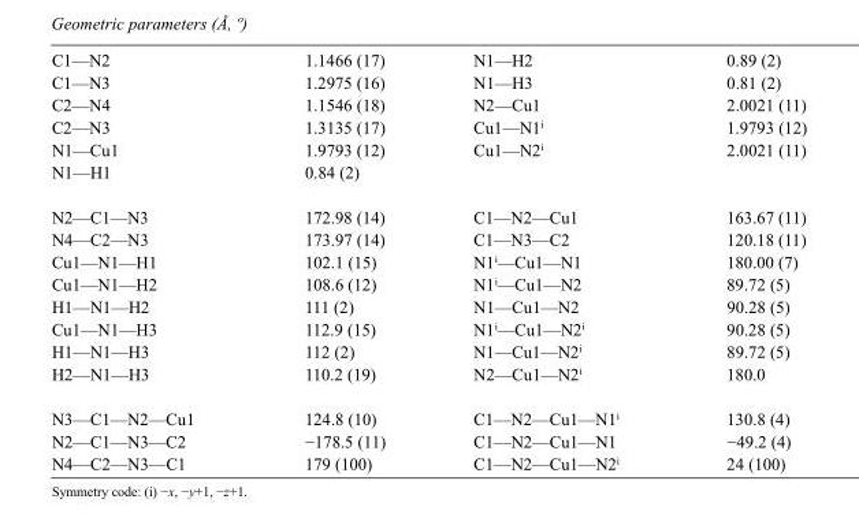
<table><tbody><tr><td>C1—N2</td><td>1.1466 (17)</td><td>N1—H2</td><td>0.89 (2)</td></tr><tr><td>C1—N3</td><td>1.2975 (16)</td><td>N1—H3</td><td>0.81 (2)</td></tr><tr><td>C2—N4</td><td>1.1546 (18)</td><td>N2—Cu1</td><td>2.0021 (11)</td></tr><tr><td>C2—N3</td><td>1.3135 (17)</td><td>Cu1—N1<sup>i</sup></td><td>1.9793 (12)</td></tr><tr><td>N1—Cu1</td><td>1.9793 (12)</td><td>Cu1—N2<sup>i</sup></td><td>2.0021 (11)</td></tr><tr><td>N1—H1</td><td>0.84 (2)</td><td></td><td></td></tr><tr><td>N2—C1—N3</td><td>172.98 (14)</td><td>C1—N2—Cu1</td><td>163.67 (11)</td></tr><tr><td>N4—C2—N3</td><td>173.97 (14)</td><td>C1—N3—C2</td><td>120.18 (11)</td></tr><tr><td>Cu1—N1—H1</td><td>102.1 (15)</td><td>N1<sup>i</sup>—Cu1—N1</td><td>180.00 (7)</td></tr><tr><td>Cu1—N1—H2</td><td>108.6 (12)</td><td>N1<sup>i</sup>—Cu1—N2</td><td>89.72 (5)</td></tr><tr><td>H1—N1—H2</td><td>111 (2)</td><td>N1—Cu1—N2</td><td>90.28 (5)</td></tr><tr><td>Cu1—N1—H3</td><td>112.9 (15)</td><td>N1<sup>i</sup>—Cu1—N2<sup>i</sup></td><td>90.28 (5)</td></tr><tr><td>H1—N1—H3</td><td>112 (2)</td><td>N1—Cu1—N2<sup>i</sup></td><td>89.72 (5)</td></tr><tr><td>H2—N1—H3</td><td>110.2 (19)</td><td>N2—Cu1—N2<sup>i</sup></td><td>180.0</td></tr><tr><td>N3—C1—N2—Cu1</td><td>124.8 (10)</td><td>C1—N2—Cu1—N1<sup>i</sup></td><td>130.8 (4)</td></tr><tr><td>N2—C1—N3—C2</td><td>−178.5 (11)</td><td>C1—N2—Cu1—N1</td><td>−49.2 (4)</td></tr><tr><td>N4—C2—N3—C1</td><td>179 (100)</td><td>C1—N2—Cu1—N2<sup>i</sup></td><td>24 (100)</td></tr></tbody></table>